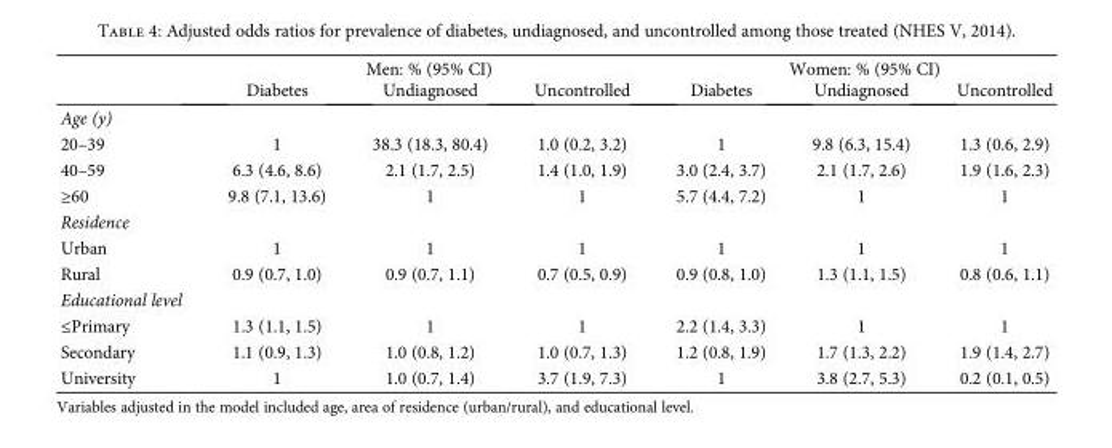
<table><thead><tr><td rowspan="2"></td><td colspan="3">Men: % (95% CI)</td><td colspan="3">Women: % (95% CI)</td></tr><tr><td>Diabetes</td><td>Undiagnosed</td><td>Uncontrolled</td><td>Diabetes</td><td>Undiagnosed</td><td>Uncontrolled</td></tr></thead><tbody><tr><td colspan="7">Age (y)</td></tr><tr><td>20–39</td><td>1</td><td>38.3 (18.3, 80.4)</td><td>1.0 (0.2, 3.2)</td><td>1</td><td>9.8 (6.3, 15.4)</td><td>1.3 (0.6, 2.9)</td></tr><tr><td>40–59</td><td>6.3 (4.6, 8.6)</td><td>2.1 (1.7, 2.5)</td><td>1.4 (1.0, 1.9)</td><td>3.0 (2.4, 3.7)</td><td>2.1 (1.7, 2.6)</td><td>1.9 (1.6, 2.3)</td></tr><tr><td>≥60</td><td>9.8 (7.1, 13.6)</td><td>1</td><td>1</td><td>5.7 (4.4, 7.2)</td><td>1</td><td>1</td></tr><tr><td colspan="7">Residence</td></tr><tr><td>Urban</td><td>1</td><td>1</td><td>1</td><td>1</td><td>1</td><td>1</td></tr><tr><td>Rural</td><td>0.9 (0.7, 1.0)</td><td>0.9 (0.7, 1.1)</td><td>0.7 (0.5, 0.9)</td><td>0.9 (0.8, 1.0)</td><td>1.3 (1.1, 1.5)</td><td>0.8 (0.6, 1.1)</td></tr><tr><td colspan="7">Educational level</td></tr><tr><td>≤Primary</td><td>1.3 (1.1, 1.5)</td><td>1</td><td>1</td><td>2.2 (1.4, 3.3)</td><td>1</td><td>1</td></tr><tr><td>Secondary</td><td>1.1 (0.9, 1.3)</td><td>1.0 (0.8, 1.2)</td><td>1.0 (0.7, 1.3)</td><td>1.2 (0.8, 1.9)</td><td>1.7 (1.3, 2.2)</td><td>1.9 (1.4, 2.7)</td></tr><tr><td>University</td><td>1</td><td>1.0 (0.7, 1.4)</td><td>3.7 (1.9, 7.3)</td><td>1</td><td>3.8 (2.7, 5.3)</td><td>0.2 (0.1, 0.5)</td></tr></tbody></table>